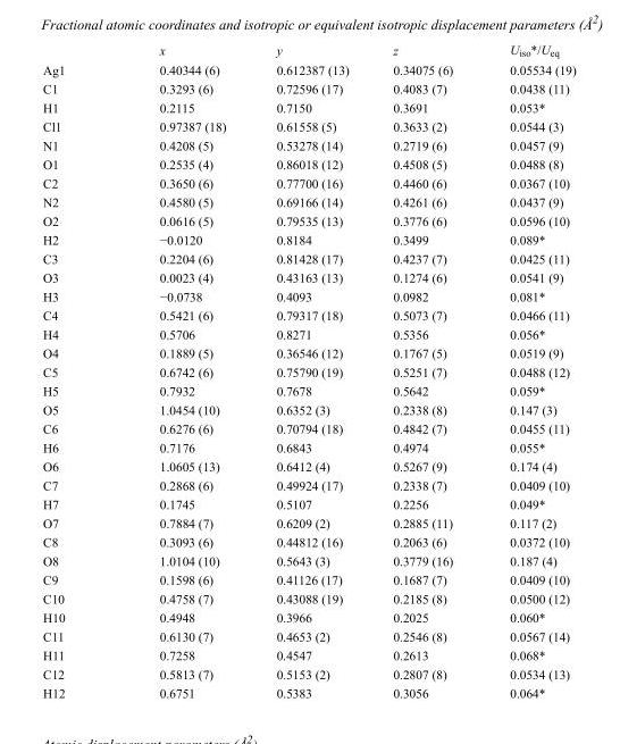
<table><thead><tr><td></td><td>x</td><td>y</td><td>z</td><td>U<sub>iso</sub>*/U<sub>eq</sub></td></tr></thead><tbody><tr><td>Ag1</td><td>0.40344 (6)</td><td>0.612387 (13)</td><td>0.34075 (6)</td><td>0.05534 (19)</td></tr><tr><td>C1</td><td>0.3293 (6)</td><td>0.72596 (17)</td><td>0.4083 (7)</td><td>0.0438 (11)</td></tr><tr><td>H1</td><td>0.2115</td><td>0.7150</td><td>0.3691</td><td>0.053*</td></tr><tr><td>Cl1</td><td>0.97387 (18)</td><td>0.61558 (5)</td><td>0.3633 (2)</td><td>0.0544 (3)</td></tr><tr><td>N1</td><td>0.4208 (5)</td><td>0.53278 (14)</td><td>0.2719 (6)</td><td>0.0457 (9)</td></tr><tr><td>O1</td><td>0.2535 (4)</td><td>0.86018 (12)</td><td>0.4508 (5)</td><td>0.0488 (8)</td></tr><tr><td>C2</td><td>0.3650 (6)</td><td>0.77700 (16)</td><td>0.4460 (6)</td><td>0.0367 (10)</td></tr><tr><td>N2</td><td>0.4580 (5)</td><td>0.69166 (14)</td><td>0.4261 (6)</td><td>0.0437 (9)</td></tr><tr><td>O2</td><td>0.0616 (5)</td><td>0.79535 (13)</td><td>0.3776 (6)</td><td>0.0596 (10)</td></tr><tr><td>H2</td><td>−0.0120</td><td>0.8184</td><td>0.3499</td><td>0.089*</td></tr><tr><td>C3</td><td>0.2204 (6)</td><td>0.81428 (17)</td><td>0.4237 (7)</td><td>0.0425 (11)</td></tr><tr><td>O3</td><td>0.0023 (4)</td><td>0.43163 (13)</td><td>0.1274 (6)</td><td>0.0541 (9)</td></tr><tr><td>H3</td><td>−0.0738</td><td>0.4093</td><td>0.0982</td><td>0.081*</td></tr><tr><td>C4</td><td>0.5421 (6)</td><td>0.79317 (18)</td><td>0.5073 (7)</td><td>0.0466 (11)</td></tr><tr><td>H4</td><td>0.5706</td><td>0.8271</td><td>0.5356</td><td>0.056*</td></tr><tr><td>O4</td><td>0.1889 (5)</td><td>0.36546 (12)</td><td>0.1767 (5)</td><td>0.0519 (9)</td></tr><tr><td>C5</td><td>0.6742 (6)</td><td>0.75790 (19)</td><td>0.5251 (7)</td><td>0.0488 (12)</td></tr><tr><td>H5</td><td>0.7932</td><td>0.7678</td><td>0.5642</td><td>0.059*</td></tr><tr><td>O5</td><td>1.0454 (10)</td><td>0.6352 (3)</td><td>0.2338 (8)</td><td>0.147 (3)</td></tr><tr><td>C6</td><td>0.6276 (6)</td><td>0.70794 (18)</td><td>0.4842 (7)</td><td>0.0455 (11)</td></tr><tr><td>H6</td><td>0.7176</td><td>0.6843</td><td>0.4974</td><td>0.055*</td></tr><tr><td>O6</td><td>1.0605 (13)</td><td>0.6412 (4)</td><td>0.5267 (9)</td><td>0.174 (4)</td></tr><tr><td>C7</td><td>0.2868 (6)</td><td>0.49924 (17)</td><td>0.2338 (7)</td><td>0.0409 (10)</td></tr><tr><td>H7</td><td>0.1745</td><td>0.5107</td><td>0.2256</td><td>0.049*</td></tr><tr><td>O7</td><td>0.7884 (7)</td><td>0.6209 (2)</td><td>0.2885 (11)</td><td>0.117 (2)</td></tr><tr><td>C8</td><td>0.3093 (6)</td><td>0.44812 (16)</td><td>0.2063 (6)</td><td>0.0372 (10)</td></tr><tr><td>O8</td><td>1.0104 (10)</td><td>0.5643 (3)</td><td>0.3779 (16)</td><td>0.187 (4)</td></tr><tr><td>C9</td><td>0.1598 (6)</td><td>0.41126 (17)</td><td>0.1687 (7)</td><td>0.0409 (10)</td></tr><tr><td>C10</td><td>0.4758 (7)</td><td>0.43088 (19)</td><td>0.2185 (8)</td><td>0.0500 (12)</td></tr><tr><td>H10</td><td>0.4948</td><td>0.3966</td><td>0.2025</td><td>0.060*</td></tr><tr><td>C11</td><td>0.6130 (7)</td><td>0.4653 (2)</td><td>0.2546 (8)</td><td>0.0567 (14)</td></tr><tr><td>H11</td><td>0.7258</td><td>0.4547</td><td>0.2613</td><td>0.068*</td></tr><tr><td>C12</td><td>0.5813 (7)</td><td>0.5153 (2)</td><td>0.2807 (8)</td><td>0.0534 (13)</td></tr><tr><td>H12</td><td>0.6751</td><td>0.5383</td><td>0.3056</td><td>0.064*</td></tr></tbody></table>